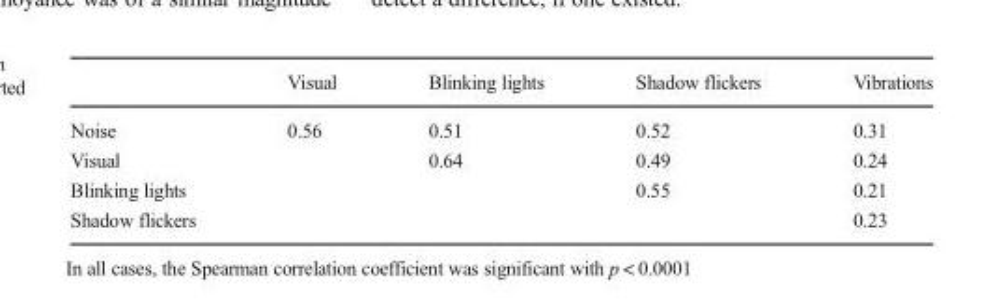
<table><thead><tr><td></td><td>Visual</td><td>Blinking lights</td><td>Shadow flickers</td><td>Vibrations</td></tr></thead><tbody><tr><td>Noise</td><td>0.56</td><td>0.51</td><td>0.52</td><td>0.31</td></tr><tr><td>Visual</td><td></td><td>0.64</td><td>0.49</td><td>0.24</td></tr><tr><td>Blinking lights</td><td></td><td></td><td>0.55</td><td>0.21</td></tr><tr><td>Shadow flickers</td><td></td><td></td><td></td><td>0.23</td></tr></tbody></table>